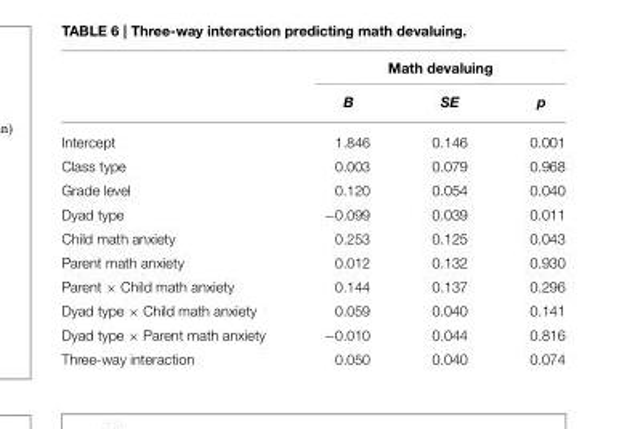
<table><thead><tr><td rowspan="2"></td><td colspan="3">Math devaluing</td></tr><tr><td>B</td><td>SE</td><td>p</td></tr></thead><tbody><tr><td>Intercept</td><td>1.846</td><td>0.146</td><td>0.001</td></tr><tr><td>Class type</td><td>0.003</td><td>0.079</td><td>0.968</td></tr><tr><td>Grade level</td><td>0.120</td><td>0.054</td><td>0.040</td></tr><tr><td>Dyad type</td><td>−0.099</td><td>0.039</td><td>0.011</td></tr><tr><td>Child math anxiety</td><td>0.253</td><td>0.125</td><td>0.043</td></tr><tr><td>Parent math anxiety</td><td>0.012</td><td>0.132</td><td>0.930</td></tr><tr><td>Parent × Child math anxiety</td><td>0.144</td><td>0.137</td><td>0.296</td></tr><tr><td>Dyad type × Child math anxiety</td><td>0.059</td><td>0.040</td><td>0.141</td></tr><tr><td>Dyad type × Parent math anxiety</td><td>−0.010</td><td>0.044</td><td>0.816</td></tr><tr><td>Three-way interaction</td><td>0.050</td><td>0.040</td><td>0.074</td></tr></tbody></table>